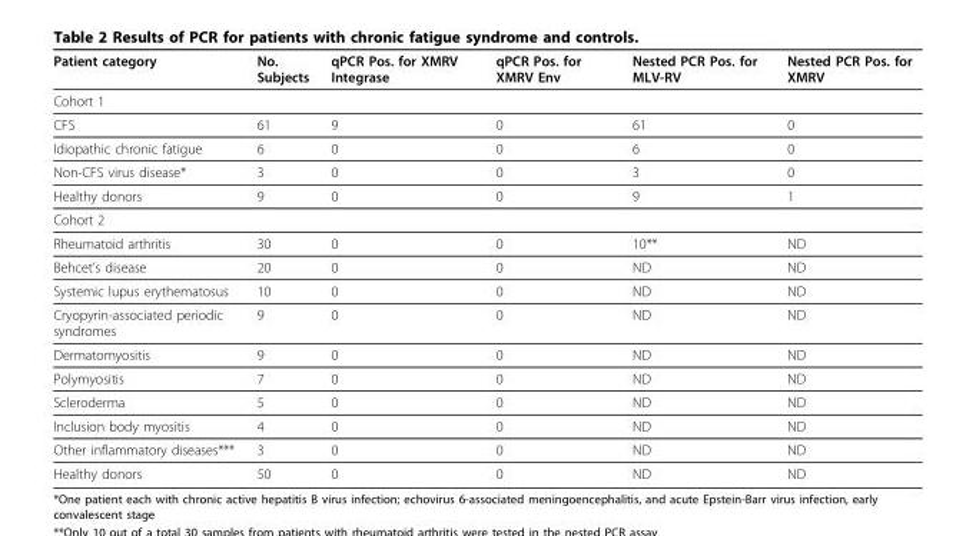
<table><thead><tr><td>Patient category</td><td>No. Subjects</td><td>qPCR Pos. for XMRV Integrase</td><td>qPCR Pos. for XMRV Env</td><td>Nested PCR Pos. for MLV-RV</td><td>Nested PCR Pos. for XMRV</td></tr></thead><tbody><tr><td colspan="6">Cohort 1</td></tr><tr><td>CFS</td><td>61</td><td>9</td><td>0</td><td>61</td><td>0</td></tr><tr><td>Idiopathic chronic fatigue</td><td>6</td><td>0</td><td>0</td><td>6</td><td>0</td></tr><tr><td>Non-CFS virus disease*</td><td>3</td><td>0</td><td>0</td><td>3</td><td>0</td></tr><tr><td>Healthy donors</td><td>9</td><td>0</td><td>0</td><td>9</td><td>1</td></tr><tr><td colspan="6">Cohort 2</td></tr><tr><td>Rheumatoid arthritis</td><td>30</td><td>0</td><td>0</td><td>10**</td><td>ND</td></tr><tr><td>Behcet’s disease</td><td>20</td><td>0</td><td>0</td><td>ND</td><td>ND</td></tr><tr><td>Systemic lupus erythematosus</td><td>10</td><td>0</td><td>0</td><td>ND</td><td>ND</td></tr><tr><td>Cryopyrin-associated periodic syndromes</td><td>9</td><td>0</td><td>0</td><td>ND</td><td>ND</td></tr><tr><td>Dermatomyositis</td><td>9</td><td>0</td><td>0</td><td>ND</td><td>ND</td></tr><tr><td>Polymyositis</td><td>7</td><td>0</td><td>0</td><td>ND</td><td>ND</td></tr><tr><td>Scleroderma</td><td>5</td><td>0</td><td>0</td><td>ND</td><td>ND</td></tr><tr><td>Inclusion body myositis</td><td>4</td><td>0</td><td>0</td><td>ND</td><td>ND</td></tr><tr><td>Other inflammatory diseases***</td><td>3</td><td>0</td><td>0</td><td>ND</td><td>ND</td></tr><tr><td>Healthy donors</td><td>50</td><td>0</td><td>0</td><td>ND</td><td>ND</td></tr></tbody></table>